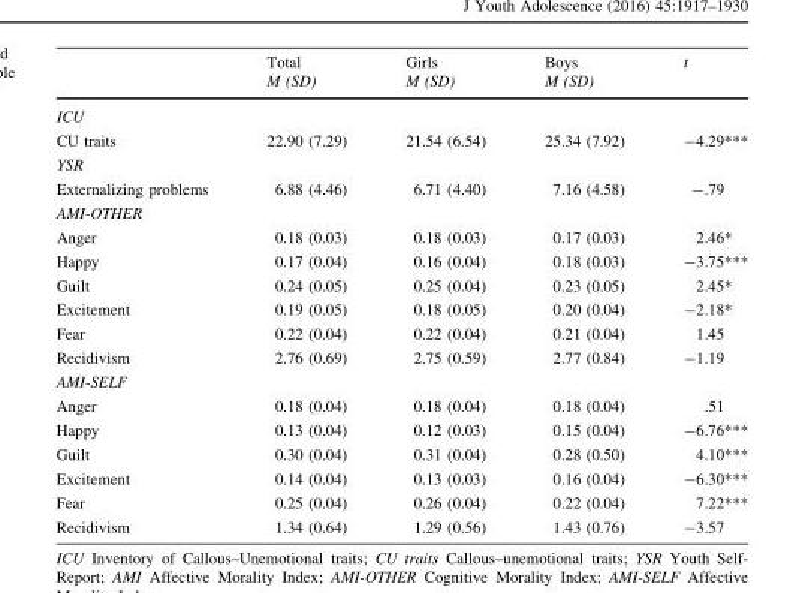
<table><thead><tr><td rowspan="2"></td><td rowspan="2">Total M (SD)</td><td rowspan="2">Girls M (SD)</td><td rowspan="2">Boys M (SD)</td><td rowspan="2">t</td></tr><tr></tr></thead><tbody><tr><td colspan="5">ICU</td></tr><tr><td>CU traits</td><td>22.90 (7.29)</td><td>21.54 (6.54)</td><td>25.34 (7.92)</td><td>-4.29***</td></tr><tr><td colspan="5">YSR</td></tr><tr><td>Externalizing problems</td><td>6.88 (4.46)</td><td>6.71 (4.40)</td><td>7.16 (4.58)</td><td>-.79</td></tr><tr><td colspan="5">AMI-OTHER</td></tr><tr><td>Anger</td><td>0.18 (0.03)</td><td>0.18 (0.03)</td><td>0.17 (0.03)</td><td>2.46*</td></tr><tr><td>Happy</td><td>0.17 (0.04)</td><td>0.16 (0.04)</td><td>0.18 (0.03)</td><td>-3.75***</td></tr><tr><td>Guilt</td><td>0.24 (0.05)</td><td>0.25 (0.04)</td><td>0.23 (0.05)</td><td>2.45*</td></tr><tr><td>Excitement</td><td>0.19 (0.05)</td><td>0.18 (0.05)</td><td>0.20 (0.04)</td><td>-2.18*</td></tr><tr><td>Fear</td><td>0.22 (0.04)</td><td>0.22 (0.04)</td><td>0.21 (0.04)</td><td>1.45</td></tr><tr><td>Recidivism</td><td>2.76 (0.69)</td><td>2.75 (0.59)</td><td>2.77 (0.84)</td><td>-1.19</td></tr><tr><td colspan="5">AMI-SELF</td></tr><tr><td>Anger</td><td>0.18 (0.04)</td><td>0.18 (0.04)</td><td>0.18 (0.04)</td><td>.51</td></tr><tr><td>Happy</td><td>0.13 (0.04)</td><td>0.12 (0.03)</td><td>0.15 (0.04)</td><td>-6.76***</td></tr><tr><td>Guilt</td><td>0.30 (0.04)</td><td>0.31 (0.04)</td><td>0.28 (0.50)</td><td>4.10***</td></tr><tr><td>Excitement</td><td>0.14 (0.04)</td><td>0.13 (0.03)</td><td>0.16 (0.04)</td><td>-6.30***</td></tr><tr><td>Fear</td><td>0.25 (0.04)</td><td>0.26 (0.04)</td><td>0.22 (0.04)</td><td>7.22***</td></tr><tr><td>Recidivism</td><td>1.34 (0.64)</td><td>1.29 (0.56)</td><td>1.43 (0.76)</td><td>-3.57</td></tr></tbody></table>